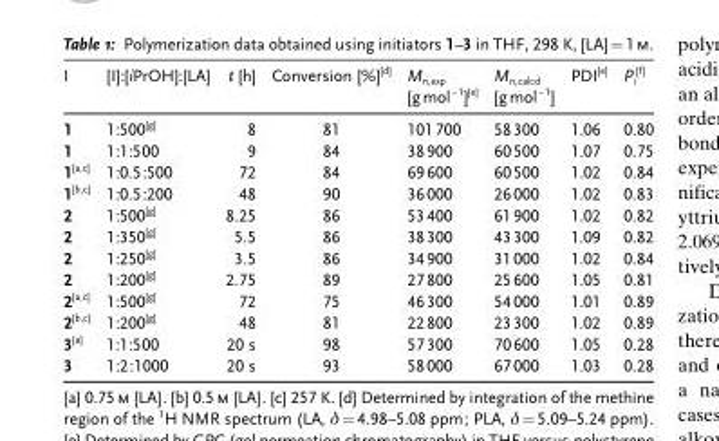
<table><thead><tr><td>I</td><td>[I]:[iPrOH]:[LA]</td><td>t [h]</td><td>Conversion [%][d]</td><td>M<sub>n,exp</sub> [gmol<sup>−1</sup>][e]</td><td>M<sub>n,calcd</sub> [gmol<sup>−1</sup>]</td><td>PDI[e]</td><td>P<sub>i</sub> [f]</td></tr></thead><tbody><tr><td>1</td><td>1:500[g]</td><td>8</td><td>81</td><td>101700</td><td>58300</td><td>1.06</td><td>0.80</td></tr><tr><td>1</td><td>1:1:500</td><td>9</td><td>84</td><td>38900</td><td>60500</td><td>1.07</td><td>0.75</td></tr><tr><td>1[a,c]</td><td>1:0.5:500</td><td>72</td><td>84</td><td>69600</td><td>60500</td><td>1.02</td><td>0.84</td></tr><tr><td>1[b,c]</td><td>1:0.5:200</td><td>48</td><td>90</td><td>36000</td><td>26000</td><td>1.02</td><td>0.83</td></tr><tr><td>2</td><td>1:500[g]</td><td>8.25</td><td>86</td><td>53400</td><td>61900</td><td>1.02</td><td>0.82</td></tr><tr><td>2</td><td>1:350[g]</td><td>5.5</td><td>86</td><td>38300</td><td>43300</td><td>1.09</td><td>0.82</td></tr><tr><td>2</td><td>1:250[g]</td><td>3.5</td><td>86</td><td>34900</td><td>31000</td><td>1.02</td><td>0.84</td></tr><tr><td>2</td><td>1:200[g]</td><td>2.75</td><td>89</td><td>27800</td><td>25600</td><td>1.05</td><td>0.81</td></tr><tr><td>2[a,c]</td><td>1:500[g]</td><td>72</td><td>75</td><td>46300</td><td>54000</td><td>1.01</td><td>0.89</td></tr><tr><td>2[b,c]</td><td>1:200[g]</td><td>48</td><td>81</td><td>22800</td><td>23300</td><td>1.02</td><td>0.89</td></tr><tr><td>3[a]</td><td>1:1:500</td><td>20 s</td><td>98</td><td>57300</td><td>70600</td><td>1.05</td><td>0.28</td></tr><tr><td>3</td><td>1:2:1000</td><td>20 s</td><td>93</td><td>58000</td><td>67000</td><td>1.03</td><td>0.28</td></tr></tbody></table>